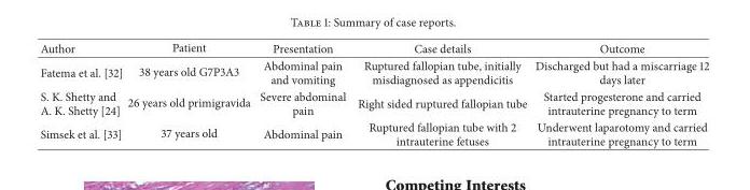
<table><thead><tr><td>Author</td><td>Patient</td><td>Presentation</td><td>Case details</td><td>Outcome</td></tr></thead><tbody><tr><td>Fatema et al. [32]</td><td>38 years old G7P3A3</td><td>Abdominal pain and vomiting</td><td>Ruptured fallopian tube, initially misdiagnosed as appendicitis</td><td>Discharged but had a miscarriage 12 days later</td></tr><tr><td>S. K. Shetty and A. K. Shetty [24]</td><td>26 years old primigravida</td><td>Severe abdominal pain</td><td>Right sided ruptured fallopian tube</td><td>Started progesterone and carried intrauterine pregnancy to term</td></tr><tr><td>Simsek et al. [33]</td><td>37 years old</td><td>Abdominal pain</td><td>Ruptured fallopian tube with 2 intrauterine fetuses</td><td>Underwent laparotomy and carried intrauterine pregnancy to term</td></tr></tbody></table>